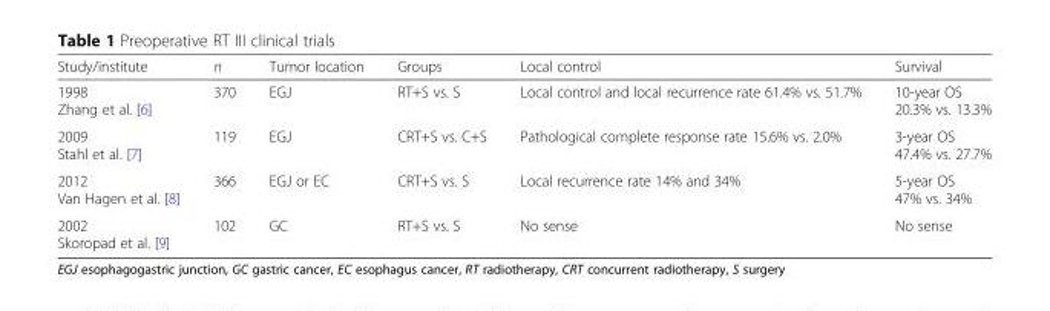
<table><thead><tr><td>Study/institute</td><td>n</td><td>Tumor location</td><td>Groups</td><td>Local control</td><td>Survival</td></tr></thead><tbody><tr><td>1998 Zhang et al. [6]</td><td>370</td><td>EGJ</td><td>RT+S vs. S</td><td>Local control and local recurrence rate 61.4% vs. 51.7%</td><td>10-year OS 20.3% vs. 13.3%</td></tr><tr><td>2009 Stahl et al. [7]</td><td>119</td><td>EGJ</td><td>CRT+S vs. C+S</td><td>Pathological complete response rate 15.6% vs. 2.0%</td><td>3-year OS 47.4% vs. 27.7%</td></tr><tr><td>2012 Van Hagen et al. [8]</td><td>366</td><td>EGJ or EC</td><td>CRT+S vs. S</td><td>Local recurrence rate 14% and 34%</td><td>5-year OS 47% vs. 34%</td></tr><tr><td>2002 Skoropad et al. [9]</td><td>102</td><td>GC</td><td>RT+S vs. S</td><td>No sense</td><td>No sense</td></tr></tbody></table>